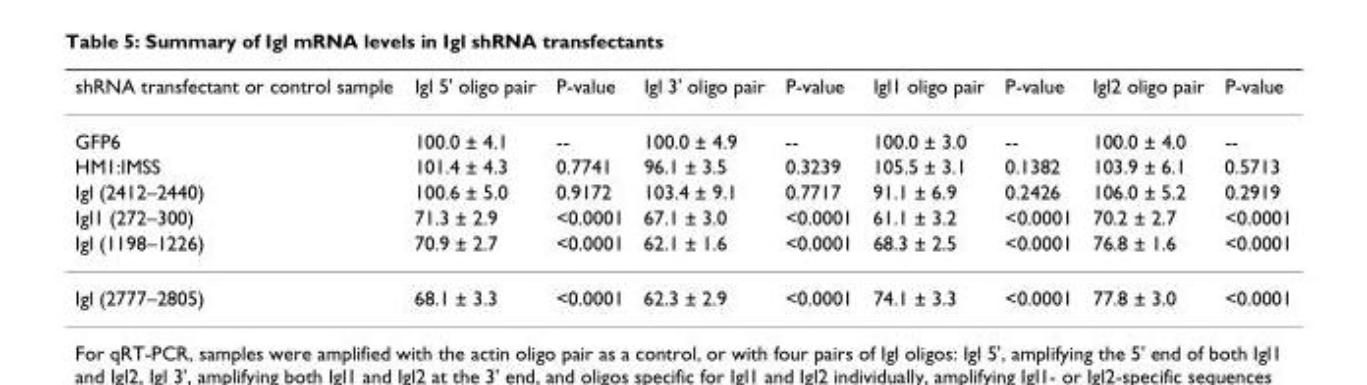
<table><thead><tr><td>shRNA transfectant or control sample</td><td>Igl 5&#x27; oligo pair</td><td>P-value</td><td>Igl 3&#x27; oligo pair</td><td>P-value</td><td>Igl1 oligo pair</td><td>P-value</td><td>Igl2 oligo pair</td><td>P-value</td></tr></thead><tbody><tr><td>GFP6</td><td>100.0 ± 4.1</td><td>--</td><td>100.0 ± 4.9</td><td>--</td><td>100.0 ± 3.0</td><td>--</td><td>100.0 ± 4.0</td><td>--</td></tr><tr><td>HM1:IMSS</td><td>101.4 ± 4.3</td><td>0.7741</td><td>96.1 ± 3.5</td><td>0.3239</td><td>105.5 ± 3.1</td><td>0.1382</td><td>103.9 ± 6.1</td><td>0.5713</td></tr><tr><td>Igl (2412–2440)</td><td>100.6 ± 5.0</td><td>0.9172</td><td>103.4 ± 9.1</td><td>0.7717</td><td>91.1 ± 6.9</td><td>0.2426</td><td>106.0 ± 5.2</td><td>0.2919</td></tr><tr><td>Igl1 (272–300)</td><td>71.3 ± 2.9</td><td>&lt;0.0001</td><td>67.1 ± 3.0</td><td>&lt;0.0001</td><td>61.1 ± 3.2</td><td>&lt;0.0001</td><td>70.2 ± 2.7</td><td>&lt;0.0001</td></tr><tr><td>Igl (1198–1226)</td><td>70.9 ± 2.7</td><td>&lt;0.0001</td><td>62.1 ± 1.6</td><td>&lt;0.0001</td><td>68.3 ± 2.5</td><td>&lt;0.0001</td><td>76.8 ± 1.6</td><td>&lt;0.0001</td></tr><tr><td>Igl (2777–2805)</td><td>68.1 ± 3.3</td><td>&lt;0.0001</td><td>62.3 ± 2.9</td><td>&lt;0.0001</td><td>74.1 ± 3.3</td><td>&lt;0.0001</td><td>77.8 ± 3.0</td><td>&lt;0.0001</td></tr></tbody></table>